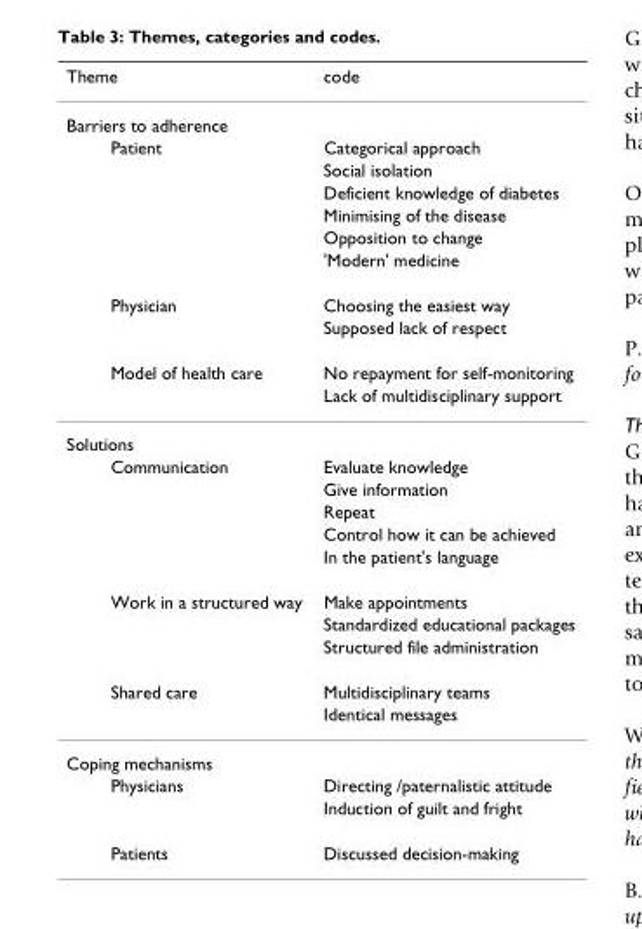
<table><thead><tr><td>Theme</td><td>code</td></tr></thead><tbody><tr><td colspan="2">Barriers to adherence</td></tr><tr><td rowspan="6">Patient</td><td>Categorical approach</td></tr><tr><td>Social isolation</td></tr><tr><td>Deficient knowledge of diabetes</td></tr><tr><td>Minimising of the disease</td></tr><tr><td>Opposition to change</td></tr><tr><td>&#x27;Modern&#x27; medicine</td></tr><tr><td rowspan="2">Physician</td><td>Choosing the easiest way</td></tr><tr><td>Supposed lack of respect</td></tr><tr><td rowspan="2">Model of health care</td><td>No repayment for self-monitoring</td></tr><tr><td>Lack of multidisciplinary support</td></tr><tr><td colspan="2">Solutions</td></tr><tr><td rowspan="5">Communication</td><td>Evaluate knowledge</td></tr><tr><td>Give information</td></tr><tr><td>Repeat</td></tr><tr><td>Control how it can be achieved</td></tr><tr><td>In the patient&#x27;s language</td></tr><tr><td rowspan="3">Work in a structured way</td><td>Make appointments</td></tr><tr><td>Standardized educational packages</td></tr><tr><td>Structured file administration</td></tr><tr><td rowspan="2">Shared care</td><td>Multidisciplinary teams</td></tr><tr><td>Identical messages</td></tr><tr><td colspan="2">Coping mechanisms</td></tr><tr><td rowspan="2">Physicians</td><td>Directing /paternalistic attitude</td></tr><tr><td>Induction of guilt and fright</td></tr><tr><td>Patients</td><td>Discussed decision-making</td></tr></tbody></table>